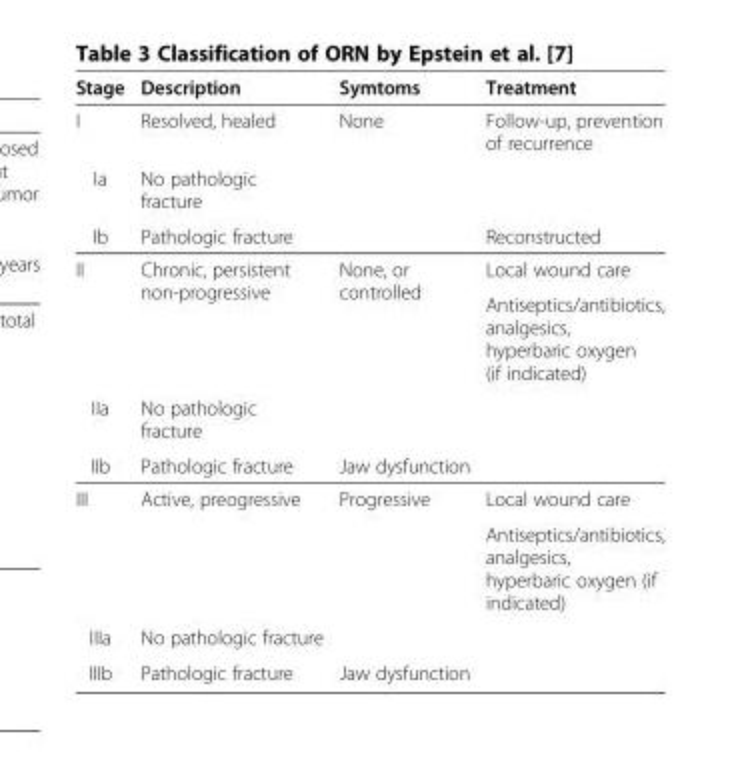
<table><thead><tr><td>Stage</td><td>Description</td><td>Symtoms</td><td>Treatment</td></tr></thead><tbody><tr><td>I</td><td>Resolved, healed</td><td>None</td><td>Follow-up, prevention of recurrence</td></tr><tr><td>Ia</td><td>No pathologic fracture</td><td></td><td></td></tr><tr><td>Ib</td><td>Pathologic fracture</td><td></td><td>Reconstructed</td></tr><tr><td rowspan="2">II</td><td rowspan="2">Chronic, persistent non-progressive</td><td rowspan="2">None, or controlled</td><td>Local wound care</td></tr><tr><td>Antiseptics/antibiotics, analgesics, hyperbaric oxygen (if indicated)</td></tr><tr><td>IIa</td><td>No pathologic fracture</td><td></td><td></td></tr><tr><td>IIb</td><td>Pathologic fracture</td><td>Jaw dysfunction</td><td></td></tr><tr><td rowspan="2">III</td><td rowspan="2">Active, preogressive</td><td rowspan="2">Progressive</td><td>Local wound care</td></tr><tr><td>Antiseptics/antibiotics, analgesics, hyperbaric oxygen (if indicated)</td></tr><tr><td>IIIa</td><td>No pathologic fracture</td><td></td><td></td></tr><tr><td>IIIb</td><td>Pathologic fracture</td><td>Jaw dysfunction</td><td></td></tr></tbody></table>